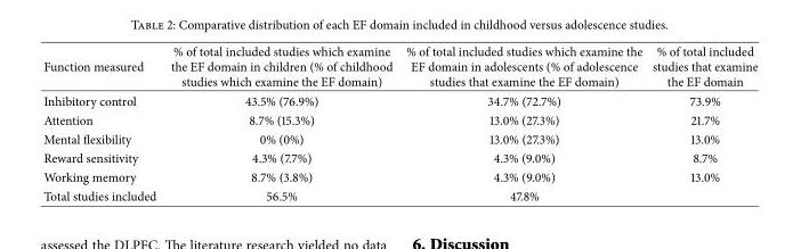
<table><thead><tr><td>Function measured</td><td>% of total included studies which examine the EF domain in children (% of childhood studies which examine the EF domain)</td><td>% of total included studies which examine the EF domain in adolescents (% of adolescence studies that examine the EF domain)</td><td>% of total included studies that examine the EF domain</td></tr></thead><tbody><tr><td>Inhibitory control</td><td>43.5% (76.9%)</td><td>34.7% (72.7%)</td><td>73.9%</td></tr><tr><td>Attention</td><td>8.7% (15.3%)</td><td>13.0% (27.3%)</td><td>21.7%</td></tr><tr><td>Mental flexibility</td><td>0% (0%)</td><td>13.0% (27.3%)</td><td>13.0%</td></tr><tr><td>Reward sensitivity</td><td>4.3% (7.7%)</td><td>4.3% (9.0%)</td><td>8.7%</td></tr><tr><td>Working memory</td><td>8.7% (3.8%)</td><td>4.3% (9.0%)</td><td>13.0%</td></tr><tr><td>Total studies included</td><td>56.5%</td><td>47.8%</td><td></td></tr></tbody></table>